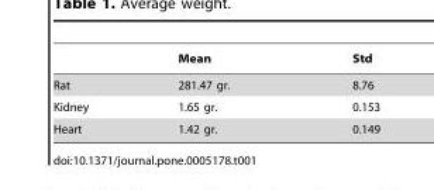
<table><thead><tr><td></td><td>Mean</td><td>Std</td></tr></thead><tbody><tr><td>Rat</td><td>281.47 gr.</td><td>8.76</td></tr><tr><td>Kidney</td><td>1.65 gr.</td><td>0.153</td></tr><tr><td>Heart</td><td>1.42 gr.</td><td>0.149</td></tr></tbody></table>